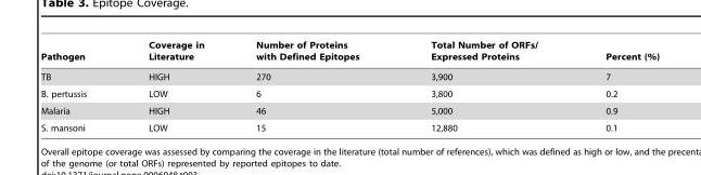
<table><thead><tr><td>Pathogen</td><td>Coverage in Literature</td><td>Number of Proteins with Defined Epitopes</td><td>Total Number of ORFs/ Expressed Proteins</td><td>Percent (%)</td></tr></thead><tbody><tr><td>TB</td><td>HIGH</td><td>270</td><td>3,900</td><td>7</td></tr><tr><td>B. pertussis</td><td>LOW</td><td>6</td><td>3,800</td><td>0.2</td></tr><tr><td>Malaria</td><td>HIGH</td><td>46</td><td>5,000</td><td>0.9</td></tr><tr><td>S. mansoni</td><td>LOW</td><td>15</td><td>12,880</td><td>0.1</td></tr></tbody></table>